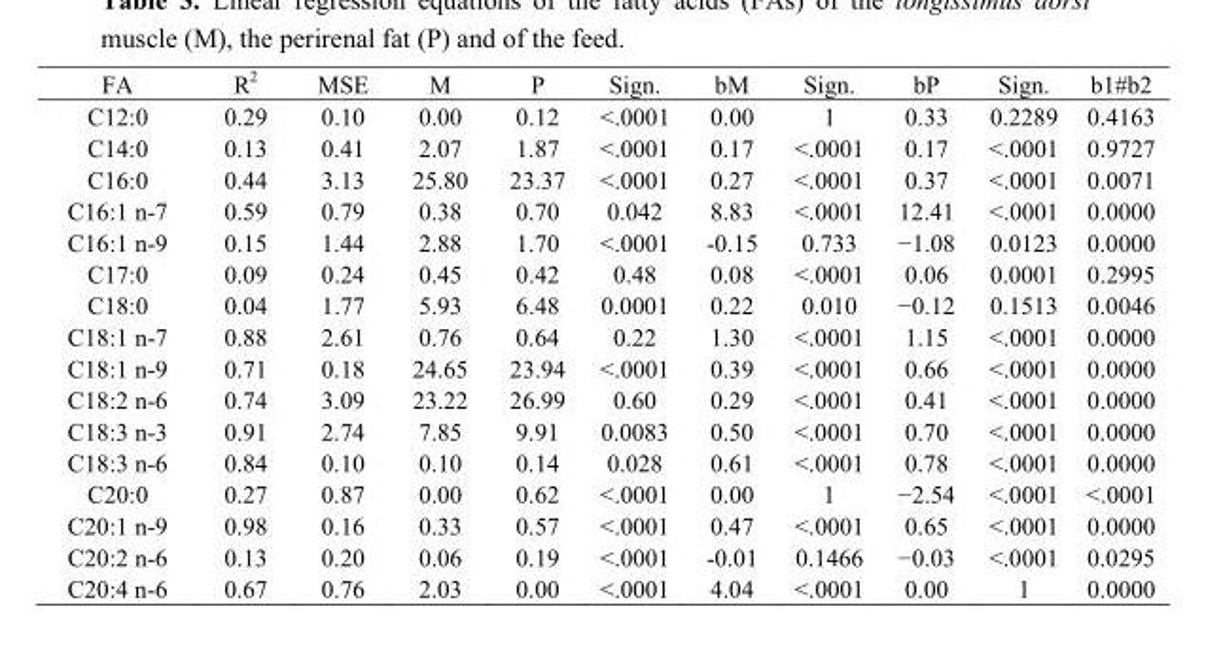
<table><thead><tr><td>FA</td><td>R<sup>2</sup></td><td>MSE</td><td>M</td><td>P</td><td>Sign.</td><td>bM</td><td>Sign.</td><td>bP</td><td>Sign.</td><td>b1#b2</td></tr></thead><tbody><tr><td>C12:0</td><td>0.29</td><td>0.10</td><td>0.00</td><td>0.12</td><td>&lt;.0001</td><td>0.00</td><td>1</td><td>0.33</td><td>0.2289</td><td>0.4163</td></tr><tr><td>C14:0</td><td>0.13</td><td>0.41</td><td>2.07</td><td>1.87</td><td>&lt;.0001</td><td>0.17</td><td>&lt;.0001</td><td>0.17</td><td>&lt;.0001</td><td>0.9727</td></tr><tr><td>C16:0</td><td>0.44</td><td>3.13</td><td>25.80</td><td>23.37</td><td>&lt;.0001</td><td>0.27</td><td>&lt;.0001</td><td>0.37</td><td>&lt;.0001</td><td>0.0071</td></tr><tr><td>C16:1 n-7</td><td>0.59</td><td>0.79</td><td>0.38</td><td>0.70</td><td>0.042</td><td>8.83</td><td>&lt;.0001</td><td>12.41</td><td>&lt;.0001</td><td>0.0000</td></tr><tr><td>C16:1 n-9</td><td>0.15</td><td>1.44</td><td>2.88</td><td>1.70</td><td>&lt;.0001</td><td>-0.15</td><td>0.733</td><td>−1.08</td><td>0.0123</td><td>0.0000</td></tr><tr><td>C17:0</td><td>0.09</td><td>0.24</td><td>0.45</td><td>0.42</td><td>0.48</td><td>0.08</td><td>&lt;.0001</td><td>0.06</td><td>0.0001</td><td>0.2995</td></tr><tr><td>C18:0</td><td>0.04</td><td>1.77</td><td>5.93</td><td>6.48</td><td>0.0001</td><td>0.22</td><td>0.010</td><td>−0.12</td><td>0.1513</td><td>0.0046</td></tr><tr><td>C18:1 n-7</td><td>0.88</td><td>2.61</td><td>0.76</td><td>0.64</td><td>0.22</td><td>1.30</td><td>&lt;.0001</td><td>1.15</td><td>&lt;.0001</td><td>0.0000</td></tr><tr><td>C18:1 n-9</td><td>0.71</td><td>0.18</td><td>24.65</td><td>23.94</td><td>&lt;.0001</td><td>0.39</td><td>&lt;.0001</td><td>0.66</td><td>&lt;.0001</td><td>0.0000</td></tr><tr><td>C18:2 n-6</td><td>0.74</td><td>3.09</td><td>23.22</td><td>26.99</td><td>0.60</td><td>0.29</td><td>&lt;.0001</td><td>0.41</td><td>&lt;.0001</td><td>0.0000</td></tr><tr><td>C18:3 n-3</td><td>0.91</td><td>2.74</td><td>7.85</td><td>9.91</td><td>0.0083</td><td>0.50</td><td>&lt;.0001</td><td>0.70</td><td>&lt;.0001</td><td>0.0000</td></tr><tr><td>C18:3 n-6</td><td>0.84</td><td>0.10</td><td>0.10</td><td>0.14</td><td>0.028</td><td>0.61</td><td>&lt;.0001</td><td>0.78</td><td>&lt;.0001</td><td>0.0000</td></tr><tr><td>C20:0</td><td>0.27</td><td>0.87</td><td>0.00</td><td>0.62</td><td>&lt;.0001</td><td>0.00</td><td>1</td><td>−2.54</td><td>&lt;.0001</td><td>&lt;.0001</td></tr><tr><td>C20:1 n-9</td><td>0.98</td><td>0.16</td><td>0.33</td><td>0.57</td><td>&lt;.0001</td><td>0.47</td><td>&lt;.0001</td><td>0.65</td><td>&lt;.0001</td><td>0.0000</td></tr><tr><td>C20:2 n-6</td><td>0.13</td><td>0.20</td><td>0.06</td><td>0.19</td><td>&lt;.0001</td><td>-0.01</td><td>0.1466</td><td>−0.03</td><td>&lt;.0001</td><td>0.0295</td></tr><tr><td>C20:4 n-6</td><td>0.67</td><td>0.76</td><td>2.03</td><td>0.00</td><td>&lt;.0001</td><td>4.04</td><td>&lt;.0001</td><td>0.00</td><td>1</td><td>0.0000</td></tr></tbody></table>